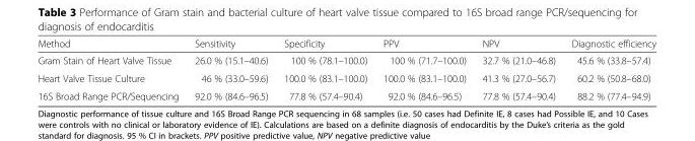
<table><thead><tr><td>Method</td><td>Sensitivity</td><td>Specificity</td><td>PPV</td><td>NPV</td><td>Diagnostic efficiency</td></tr></thead><tbody><tr><td>Gram Stain of Heart Valve Tissue</td><td>26.0 % (15.1–40.6)</td><td>100 % (78.1–100.0)</td><td>100 % (71.7–100.0)</td><td>32.7 % (21.0–46.8)</td><td>45.6 % (33.8–57.4)</td></tr><tr><td>Heart Valve Tissue Culture</td><td>46 % (33.0–59.6)</td><td>100.0 % (83.1–100.0)</td><td>100.0 % (83.1–100.0)</td><td>41.3 % (27.0–56.7)</td><td>60.2 % (50.8–68.0)</td></tr><tr><td>16S Broad Range PCR/Sequencing</td><td>92.0 % (84.6–96.5)</td><td>77.8 % (57.4–90.4)</td><td>92.0 % (84.6–96.5)</td><td>77.8 % (57.4–90.4)</td><td>88.2 % (77.4–94.9)</td></tr></tbody></table>